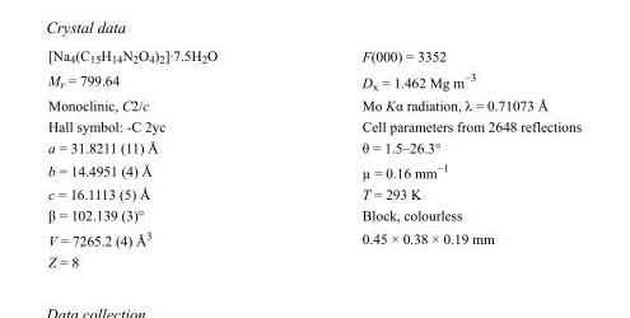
<table><tbody><tr><td>[Na<sub>4</sub>(C<sub>15</sub>H<sub>14</sub>N<sub>2</sub>O<sub>4</sub>)<sub>2</sub>]·7.5H<sub>2</sub>O</td><td>F(000) = 3352</td></tr><tr><td>M<sub>r</sub> = 799.64</td><td>D<sub>x</sub> = 1.462 Mg m<sup>−3</sup></td></tr><tr><td>Monoclinic, C2/c</td><td>Mo Kα radiation, λ = 0.71073 Å</td></tr><tr><td>Hall symbol: -C 2yc</td><td>Cell parameters from 2648 reflections</td></tr><tr><td>a = 31.8211 (11) Å</td><td>θ = 1.5–26.3°</td></tr><tr><td>b = 14.4951 (4) Å</td><td>µ = 0.16 mm<sup>−1</sup></td></tr><tr><td>c = 16.1113 (5) Å</td><td>T = 293 K</td></tr><tr><td>β = 102.139 (3)°</td><td>Block, colourless</td></tr><tr><td>V = 7265.2 (4) Å<sup>3</sup></td><td>0.45 × 0.38 × 0.19 mm</td></tr><tr><td>Z = 8</td><td></td></tr></tbody></table>